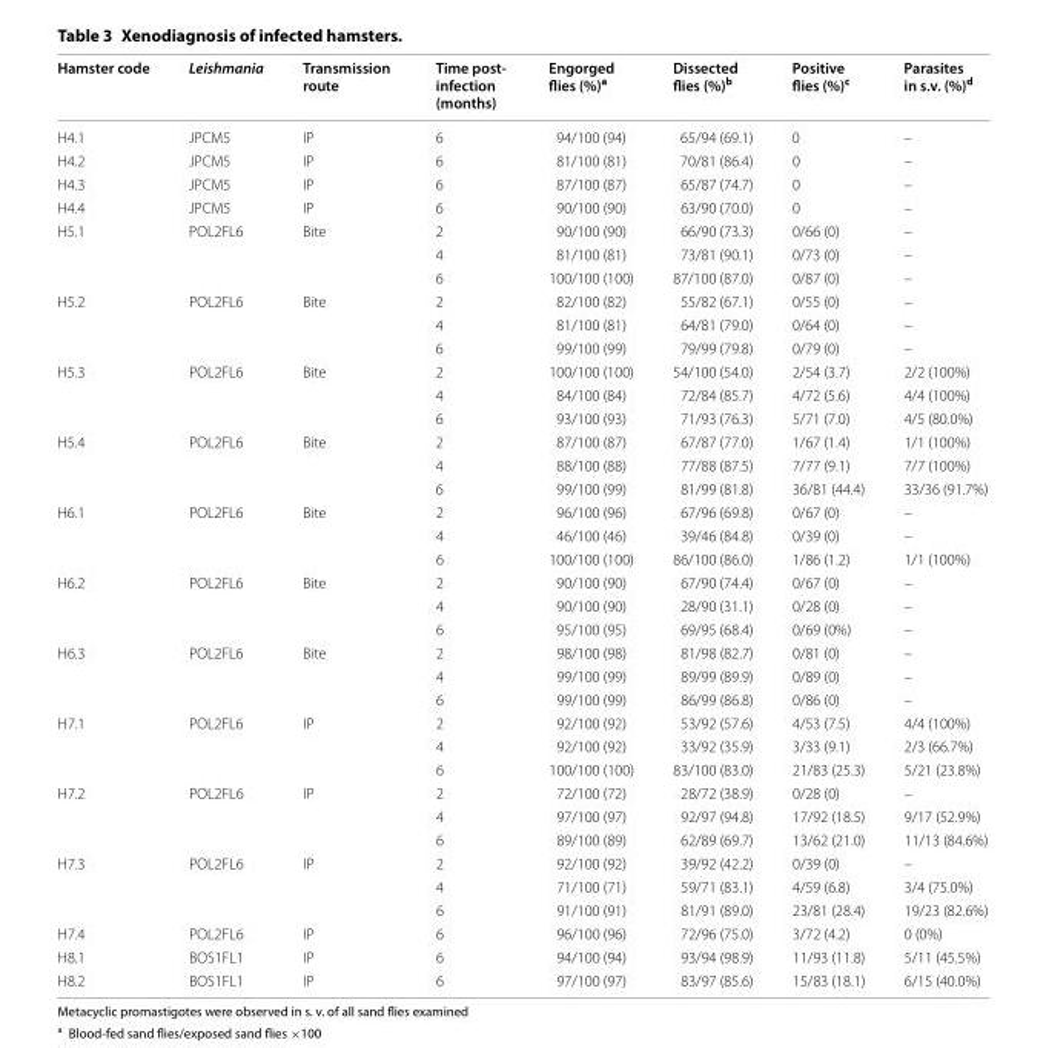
<table><thead><tr><td>Hamster code</td><td>Leishmania</td><td>Transmission route</td><td>Time post‑ infection (months)</td><td>Engorged flies (%)<sup>a</sup></td><td>Dissected flies (%)<sup>b</sup></td><td>Positive flies (%)<sup>c</sup></td><td>Parasites in s.v. (%)<sup>d</sup></td></tr></thead><tbody><tr><td>H4.1</td><td>JPCM5</td><td>IP</td><td>6</td><td>94/100 (94)</td><td>65/94 (69.1)</td><td>0</td><td>–</td></tr><tr><td>H4.2</td><td>JPCM5</td><td>IP</td><td>6</td><td>81/100 (81)</td><td>70/81 (86.4)</td><td>0</td><td>–</td></tr><tr><td>H4.3</td><td>JPCM5</td><td>IP</td><td>6</td><td>87/100 (87)</td><td>65/87 (74.7)</td><td>0</td><td>–</td></tr><tr><td>H4.4</td><td>JPCM5</td><td>IP</td><td>6</td><td>90/100 (90)</td><td>63/90 (70.0)</td><td>0</td><td>–</td></tr><tr><td rowspan="3">H5.1</td><td>POL2FL6</td><td>Bite</td><td>2</td><td>90/100 (90)</td><td>66/90 (73.3)</td><td>0/66 (0)</td><td>–</td></tr><tr><td></td><td></td><td>4</td><td>81/100 (81)</td><td>73/81 (90.1)</td><td>0/73 (0)</td><td>–</td></tr><tr><td></td><td></td><td>6</td><td>100/100 (100)</td><td>87/100 (87.0)</td><td>0/87 (0)</td><td>–</td></tr><tr><td rowspan="3">H5.2</td><td>POL2FL6</td><td>Bite</td><td>2</td><td>82/100 (82)</td><td>55/82 (67.1)</td><td>0/55 (0)</td><td>–</td></tr><tr><td></td><td></td><td>4</td><td>81/100 (81)</td><td>64/81 (79.0)</td><td>0/64 (0)</td><td>–</td></tr><tr><td></td><td></td><td>6</td><td>99/100 (99)</td><td>79/99 (79.8)</td><td>0/79 (0)</td><td>–</td></tr><tr><td rowspan="3">H5.3</td><td>POL2FL6</td><td>Bite</td><td>2</td><td>100/100 (100)</td><td>54/100 (54.0)</td><td>2/54 (3.7)</td><td>2/2 (100%)</td></tr><tr><td></td><td></td><td>4</td><td>84/100 (84)</td><td>72/84 (85.7)</td><td>4/72 (5.6)</td><td>4/4 (100%)</td></tr><tr><td></td><td></td><td>6</td><td>93/100 (93)</td><td>71/93 (76.3)</td><td>5/71 (7.0)</td><td>4/5 (80.0%)</td></tr><tr><td rowspan="3">H5.4</td><td>POL2FL6</td><td>Bite</td><td>2</td><td>87/100 (87)</td><td>67/87 (77.0)</td><td>1/67 (1.4)</td><td>1/1 (100%)</td></tr><tr><td></td><td></td><td>4</td><td>88/100 (88)</td><td>77/88 (87.5)</td><td>7/77 (9.1)</td><td>7/7 (100%)</td></tr><tr><td></td><td></td><td>6</td><td>99/100 (99)</td><td>81/99 (81.8)</td><td>36/81 (44.4)</td><td>33/36 (91.7%)</td></tr><tr><td rowspan="3">H6.1</td><td>POL2FL6</td><td>Bite</td><td>2</td><td>96/100 (96)</td><td>67/96 (69.8)</td><td>0/67 (0)</td><td>–</td></tr><tr><td></td><td></td><td>4</td><td>46/100 (46)</td><td>39/46 (84.8)</td><td>0/39 (0)</td><td>–</td></tr><tr><td></td><td></td><td>6</td><td>100/100 (100)</td><td>86/100 (86.0)</td><td>1/86 (1.2)</td><td>1/1 (100%)</td></tr><tr><td rowspan="3">H6.2</td><td>POL2FL6</td><td>Bite</td><td>2</td><td>90/100 (90)</td><td>67/90 (74.4)</td><td>0/67 (0)</td><td>–</td></tr><tr><td></td><td></td><td>4</td><td>90/100 (90)</td><td>28/90 (31.1)</td><td>0/28 (0)</td><td>–</td></tr><tr><td></td><td></td><td>6</td><td>95/100 (95)</td><td>69/95 (68.4)</td><td>0/69 (0%)</td><td>–</td></tr><tr><td rowspan="3">H6.3</td><td>POL2FL6</td><td>Bite</td><td>2</td><td>98/100 (98)</td><td>81/98 (82.7)</td><td>0/81 (0)</td><td>–</td></tr><tr><td></td><td></td><td>4</td><td>99/100 (99)</td><td>89/99 (89.9)</td><td>0/89 (0)</td><td>–</td></tr><tr><td></td><td></td><td>6</td><td>99/100 (99)</td><td>86/99 (86.8)</td><td>0/86 (0)</td><td>–</td></tr><tr><td rowspan="3">H7.1</td><td>POL2FL6</td><td>IP</td><td>2</td><td>92/100 (92)</td><td>53/92 (57.6)</td><td>4/53 (7.5)</td><td>4/4 (100%)</td></tr><tr><td></td><td></td><td>4</td><td>92/100 (92)</td><td>33/92 (35.9)</td><td>3/33 (9.1)</td><td>2/3 (66.7%)</td></tr><tr><td></td><td></td><td>6</td><td>100/100 (100)</td><td>83/100 (83.0)</td><td>21/83 (25.3)</td><td>5/21 (23.8%)</td></tr><tr><td rowspan="3">H7.2</td><td>POL2FL6</td><td>IP</td><td>2</td><td>72/100 (72)</td><td>28/72 (38.9)</td><td>0/28 (0)</td><td>–</td></tr><tr><td></td><td></td><td>4</td><td>97/100 (97)</td><td>92/97 (94.8)</td><td>17/92 (18.5)</td><td>9/17 (52.9%)</td></tr><tr><td></td><td></td><td>6</td><td>89/100 (89)</td><td>62/89 (69.7)</td><td>13/62 (21.0)</td><td>11/13 (84.6%)</td></tr><tr><td rowspan="3">H7.3</td><td>POL2FL6</td><td>IP</td><td>2</td><td>92/100 (92)</td><td>39/92 (42.2)</td><td>0/39 (0)</td><td>–</td></tr><tr><td></td><td></td><td>4</td><td>71/100 (71)</td><td>59/71 (83.1)</td><td>4/59 (6.8)</td><td>3/4 (75.0%)</td></tr><tr><td></td><td></td><td>6</td><td>91/100 (91)</td><td>81/91 (89.0)</td><td>23/81 (28.4)</td><td>19/23 (82.6%)</td></tr><tr><td>H7.4</td><td>POL2FL6</td><td>IP</td><td>6</td><td>96/100 (96)</td><td>72/96 (75.0)</td><td>3/72 (4.2)</td><td>0 (0%)</td></tr><tr><td>H8.1</td><td>BOS1FL1</td><td>IP</td><td>6</td><td>94/100 (94)</td><td>93/94 (98.9)</td><td>11/93 (11.8)</td><td>5/11 (45.5%)</td></tr><tr><td>H8.2</td><td>BOS1FL1</td><td>IP</td><td>6</td><td>97/100 (97)</td><td>83/97 (85.6)</td><td>15/83 (18.1)</td><td>6/15 (40.0%)</td></tr></tbody></table>